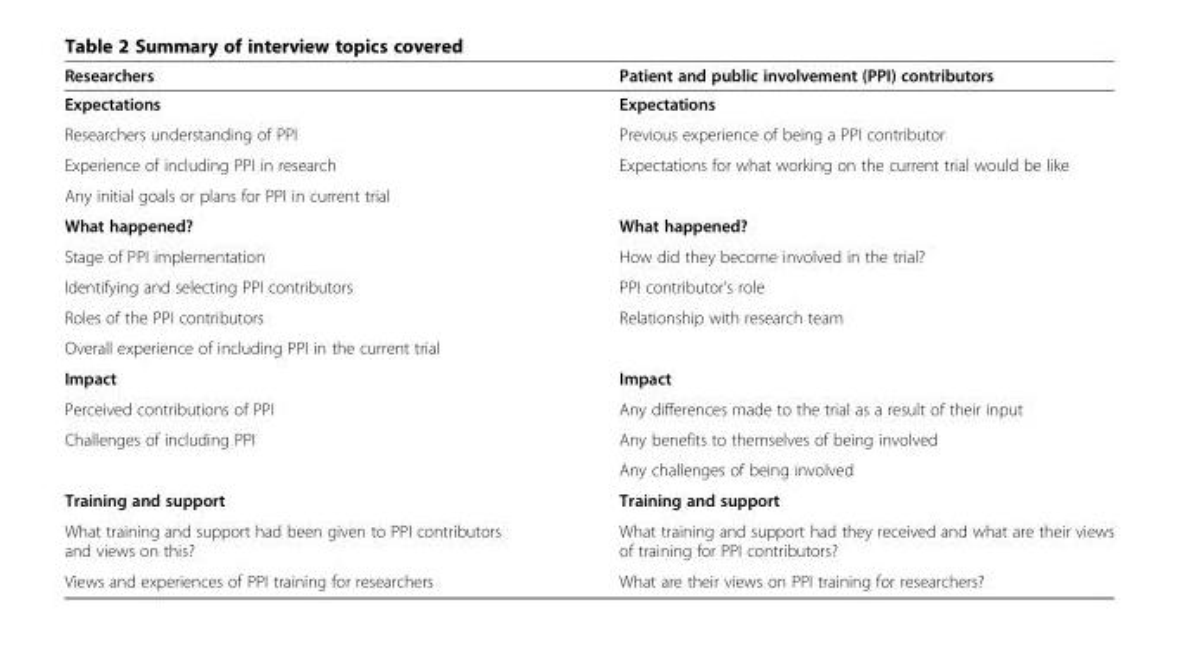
<table><thead><tr><td>Researchers</td><td>Patient and public involvement (PPI) contributors</td></tr></thead><tbody><tr><td>Expectations</td><td>Expectations</td></tr><tr><td>Researchers understanding of PPI</td><td>Previous experience of being a PPI contributor</td></tr><tr><td>Experience of including PPI in research</td><td rowspan="2">Expectations for what working on the current trial would be like</td></tr><tr><td>Any initial goals or plans for PPI in current trial</td></tr><tr><td>What happened?</td><td>What happened?</td></tr><tr><td>Stage of PPI implementation</td><td>How did they become involved in the trial?</td></tr><tr><td>Identifying and selecting PPI contributors</td><td>PPI contributor’s role</td></tr><tr><td>Roles of the PPI contributors</td><td rowspan="2">Relationship with research team</td></tr><tr><td>Overall experience of including PPI in the current trial</td></tr><tr><td>Impact</td><td>Impact</td></tr><tr><td>Perceived contributions of PPI</td><td>Any differences made to the trial as a result of their input</td></tr><tr><td rowspan="2">Challenges of including PPI</td><td>Any benefits to themselves of being involved</td></tr><tr><td>Any challenges of being involved</td></tr><tr><td>Training and support</td><td>Training and support</td></tr><tr><td>What training and support had been given to PPI contributors and views on this?</td><td>What training and support had they received and what are their views of training for PPI contributors?</td></tr><tr><td>Views and experiences of PPI training for researchers</td><td>What are their views on PPI training for researchers?</td></tr></tbody></table>